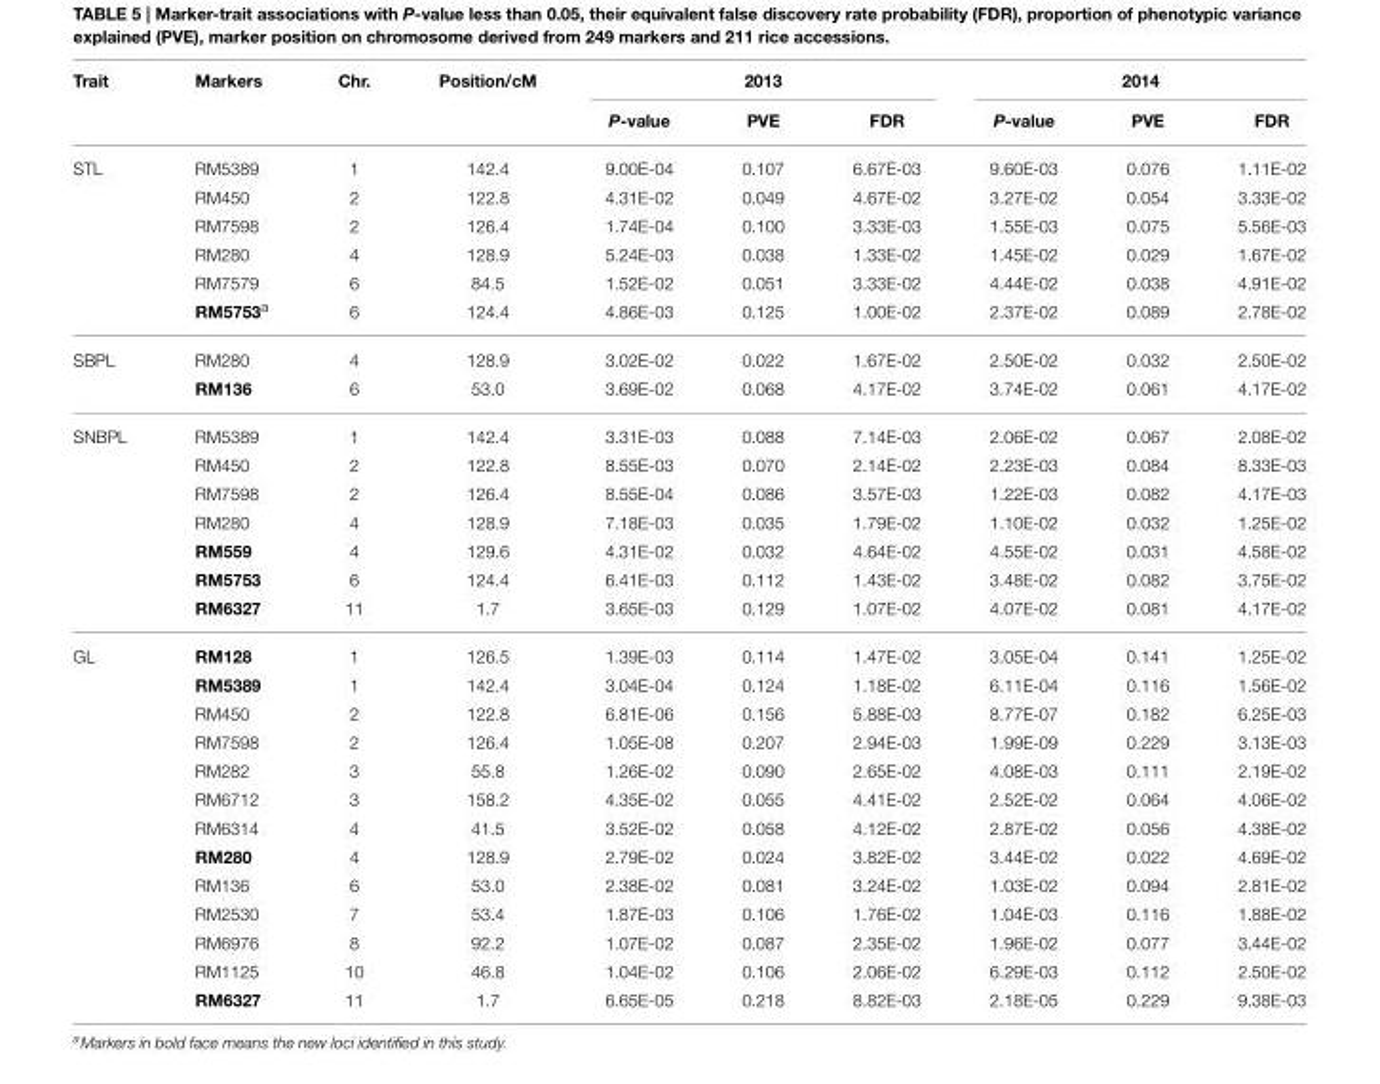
<table><thead><tr><td rowspan="2">Trait</td><td rowspan="2">Markers</td><td rowspan="2">Chr.</td><td rowspan="2">Position/cM</td><td colspan="3">2013</td><td colspan="3">2014</td></tr><tr><td>P-value</td><td>PVE</td><td>FDR</td><td>P-value</td><td>PVE</td><td>FDR</td></tr></thead><tbody><tr><td rowspan="6">STL</td><td>RM5389</td><td>1</td><td>142.4</td><td>9.00E-04</td><td>0.107</td><td>6.67E-03</td><td>9.60E-03</td><td>0.076</td><td>1.11E-02</td></tr><tr><td>RM450</td><td>2</td><td>122.8</td><td>4.31E-02</td><td>0.049</td><td>4.67E-02</td><td>3.27E-02</td><td>0.054</td><td>3.33E-02</td></tr><tr><td>RM7598</td><td>2</td><td>126.4</td><td>1.74E-04</td><td>0.100</td><td>3.33E-03</td><td>1.55E-03</td><td>0.075</td><td>5.56E-03</td></tr><tr><td>RM280</td><td>4</td><td>128.9</td><td>5.24E-03</td><td>0.038</td><td>1.33E-02</td><td>1.45E-02</td><td>0.029</td><td>1.67E-02</td></tr><tr><td>RM7579</td><td>6</td><td>84.5</td><td>1.52E-02</td><td>0.051</td><td>3.33E-02</td><td>4.44E-02</td><td>0.038</td><td>4.91E-02</td></tr><tr><td>RM5753<sup>a</sup></td><td>6</td><td>124.4</td><td>4.86E-03</td><td>0.125</td><td>1.00E-02</td><td>2.37E-02</td><td>0.089</td><td>2.78E-02</td></tr><tr><td rowspan="2">SBPL</td><td>RM280</td><td>4</td><td>128.9</td><td>3.02E-02</td><td>0.022</td><td>1.67E-02</td><td>2.50E-02</td><td>0.032</td><td>2.50E-02</td></tr><tr><td>RM136</td><td>6</td><td>53.0</td><td>3.69E-02</td><td>0.068</td><td>4.17E-02</td><td>3.74E-02</td><td>0.061</td><td>4.17E-02</td></tr><tr><td rowspan="7">SNBPL</td><td>RM5389</td><td>1</td><td>142.4</td><td>3.31E-03</td><td>0.088</td><td>7.14E-03</td><td>2.06E-02</td><td>0.067</td><td>2.08E-02</td></tr><tr><td>RM450</td><td>2</td><td>122.8</td><td>8.55E-03</td><td>0.070</td><td>2.14E-02</td><td>2.23E-03</td><td>0.084</td><td>8.33E-03</td></tr><tr><td>RM7598</td><td>2</td><td>126.4</td><td>8.55E-04</td><td>0.086</td><td>3.57E-03</td><td>1.22E-03</td><td>0.082</td><td>4.17E-03</td></tr><tr><td>RM280</td><td>4</td><td>128.9</td><td>7.18E-03</td><td>0.035</td><td>1.79E-02</td><td>1.10E-02</td><td>0.032</td><td>1.25E-02</td></tr><tr><td>RM559</td><td>4</td><td>129.6</td><td>4.31E-02</td><td>0.032</td><td>4.64E-02</td><td>4.55E-02</td><td>0.031</td><td>4.58E-02</td></tr><tr><td>RM5753</td><td>6</td><td>124.4</td><td>6.41E-03</td><td>0.112</td><td>1.43E-02</td><td>3.48E-02</td><td>0.082</td><td>3.75E-02</td></tr><tr><td>RM6327</td><td>11</td><td>1.7</td><td>3.65E-03</td><td>0.129</td><td>1.07E-02</td><td>4.07E-02</td><td>0.081</td><td>4.17E-02</td></tr><tr><td rowspan="13">GL</td><td>RM128</td><td>1</td><td>126.5</td><td>1.39E-03</td><td>0.114</td><td>1.47E-02</td><td>3.05E-04</td><td>0.141</td><td>1.25E-02</td></tr><tr><td>RM5389</td><td>1</td><td>142.4</td><td>3.04E-04</td><td>0.124</td><td>1.18E-02</td><td>6.11E-04</td><td>0.116</td><td>1.56E-02</td></tr><tr><td>RM450</td><td>2</td><td>122.8</td><td>6.81E-06</td><td>0.156</td><td>5.88E-03</td><td>8.77E-07</td><td>0.182</td><td>6.25E-03</td></tr><tr><td>RM7598</td><td>2</td><td>126.4</td><td>1.05E-08</td><td>0.207</td><td>2.94E-03</td><td>1.99E-09</td><td>0.229</td><td>3.13E-03</td></tr><tr><td>RM282</td><td>3</td><td>55.8</td><td>1.26E-02</td><td>0.090</td><td>2.65E-02</td><td>4.08E-03</td><td>0.111</td><td>2.19E-02</td></tr><tr><td>RM6712</td><td>3</td><td>158.2</td><td>4.35E-02</td><td>0.055</td><td>4.41E-02</td><td>2.52E-02</td><td>0.064</td><td>4.06E-02</td></tr><tr><td>RM6314</td><td>4</td><td>41.5</td><td>3.52E-02</td><td>0.058</td><td>4.12E-02</td><td>2.87E-02</td><td>0.056</td><td>4.38E-02</td></tr><tr><td>RM280</td><td>4</td><td>128.9</td><td>2.79E-02</td><td>0.024</td><td>3.82E-02</td><td>3.44E-02</td><td>0.022</td><td>4.69E-02</td></tr><tr><td>RM136</td><td>6</td><td>53.0</td><td>2.38E-02</td><td>0.081</td><td>3.24E-02</td><td>1.03E-02</td><td>0.094</td><td>2.81E-02</td></tr><tr><td>RM2530</td><td>7</td><td>53.4</td><td>1.87E-03</td><td>0.106</td><td>1.76E-02</td><td>1.04E-03</td><td>0.116</td><td>1.88E-02</td></tr><tr><td>RM6976</td><td>8</td><td>92.2</td><td>1.07E-02</td><td>0.087</td><td>2.35E-02</td><td>1.96E-02</td><td>0.077</td><td>3.44E-02</td></tr><tr><td>RM1125</td><td>10</td><td>46.8</td><td>1.04E-02</td><td>0.106</td><td>2.06E-02</td><td>6.29E-03</td><td>0.112</td><td>2.50E-02</td></tr><tr><td>RM6327</td><td>11</td><td>1.7</td><td>6.65E-05</td><td>0.218</td><td>8.82E-03</td><td>2.18E-05</td><td>0.229</td><td>9.38E-03</td></tr></tbody></table>